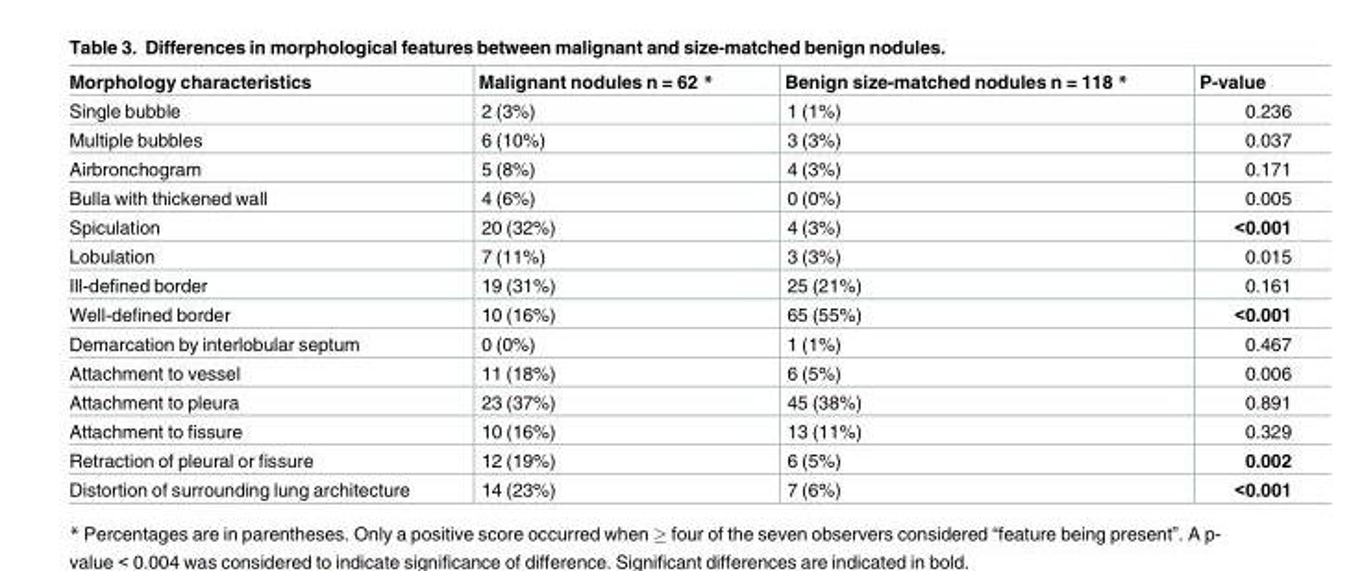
<table><thead><tr><td>Morphology characteristics</td><td>Malignant nodules n = 62 *</td><td>Benign size-matched nodules n = 118 *</td><td>P-value</td></tr></thead><tbody><tr><td>Single bubble</td><td>2 (3%)</td><td>1 (1%)</td><td>0.236</td></tr><tr><td>Multiple bubbles</td><td>6 (10%)</td><td>3 (3%)</td><td>0.037</td></tr><tr><td>Airbronchogram</td><td>5 (8%)</td><td>4 (3%)</td><td>0.171</td></tr><tr><td>Bulla with thickened wall</td><td>4 (6%)</td><td>0 (0%)</td><td>0.005</td></tr><tr><td>Spiculation</td><td>20 (32%)</td><td>4 (3%)</td><td>&lt;0.001</td></tr><tr><td>Lobulation</td><td>7 (11%)</td><td>3 (3%)</td><td>0.015</td></tr><tr><td>Ill-defined border</td><td>19 (31%)</td><td>25 (21%)</td><td>0.161</td></tr><tr><td>Well-defined border</td><td>10 (16%)</td><td>65 (55%)</td><td>&lt;0.001</td></tr><tr><td>Demarcation by interlobular septum</td><td>0 (0%)</td><td>1 (1%)</td><td>0.467</td></tr><tr><td>Attachment to vessel</td><td>11 (18%)</td><td>6 (5%)</td><td>0.006</td></tr><tr><td>Attachment to pleura</td><td>23 (37%)</td><td>45 (38%)</td><td>0.891</td></tr><tr><td>Attachment to fissure</td><td>10 (16%)</td><td>13 (11%)</td><td>0.329</td></tr><tr><td>Retraction of pleural or fissure</td><td>12 (19%)</td><td>6 (5%)</td><td>0.002</td></tr><tr><td>Distortion of surrounding lung architecture</td><td>14 (23%)</td><td>7 (6%)</td><td>&lt;0.001</td></tr></tbody></table>